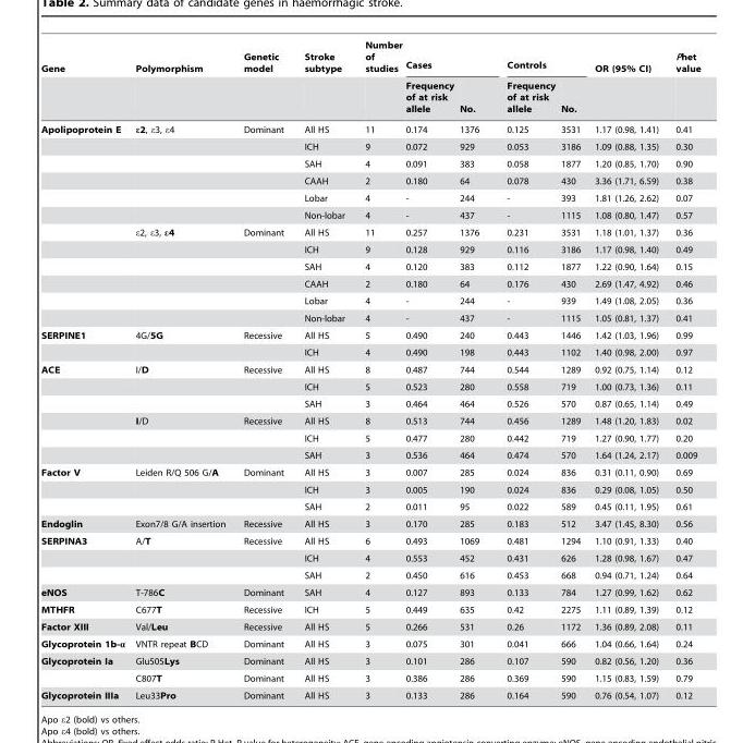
<table><thead><tr><td rowspan="2">Gene</td><td rowspan="2">Polymorphism</td><td rowspan="2">Genetic model</td><td rowspan="2">Stroke subtype</td><td rowspan="2">Number of studies</td><td colspan="2">Cases</td><td colspan="2">Controls</td><td rowspan="2">OR (95% CI)</td><td rowspan="2">Phet value</td></tr><tr><td>Frequency of at risk allele</td><td>No.</td><td>Frequency of at risk allele</td><td>No.</td></tr></thead><tbody><tr><td rowspan="12">Apolipoprotein E</td><td>ε2, ε3, ε4</td><td>Dominant</td><td>All HS</td><td>11</td><td>0.174</td><td>1376</td><td>0.125</td><td>3531</td><td>1.17 (0.98, 1.41)</td><td>0.41</td></tr><tr><td></td><td></td><td>ICH</td><td>9</td><td>0.072</td><td>929</td><td>0.053</td><td>3186</td><td>1.09 (0.88, 1.35)</td><td>0.30</td></tr><tr><td></td><td></td><td>SAH</td><td>4</td><td>0.091</td><td>383</td><td>0.058</td><td>1877</td><td>1.20 (0.85, 1.70)</td><td>0.90</td></tr><tr><td></td><td></td><td>CAAH</td><td>2</td><td>0.180</td><td>64</td><td>0.078</td><td>430</td><td>3.36 (1.71, 6.59)</td><td>0.38</td></tr><tr><td></td><td></td><td>Lobar</td><td>4</td><td>-</td><td>244</td><td>-</td><td>393</td><td>1.81 (1.26, 2.62)</td><td>0.07</td></tr><tr><td></td><td></td><td>Non-lobar</td><td>4</td><td>-</td><td>437</td><td>-</td><td>1115</td><td>1.08 (0.80, 1.47)</td><td>0.57</td></tr><tr><td>ε2, ε3, ε4</td><td>Dominant</td><td>All HS</td><td>11</td><td>0.257</td><td>1376</td><td>0.231</td><td>3531</td><td>1.18 (1.01, 1.37)</td><td>0.36</td></tr><tr><td></td><td></td><td>ICH</td><td>9</td><td>0.128</td><td>929</td><td>0.116</td><td>3186</td><td>1.17 (0.98, 1.40)</td><td>0.49</td></tr><tr><td></td><td></td><td>SAH</td><td>4</td><td>0.120</td><td>383</td><td>0.112</td><td>1877</td><td>1.22 (0.90, 1.64)</td><td>0.15</td></tr><tr><td></td><td></td><td>CAAH</td><td>2</td><td>0.180</td><td>64</td><td>0.176</td><td>430</td><td>2.69 (1.47, 4.92)</td><td>0.46</td></tr><tr><td></td><td></td><td>Lobar</td><td>4</td><td>-</td><td>244</td><td>-</td><td>939</td><td>1.49 (1.08, 2.05)</td><td>0.36</td></tr><tr><td></td><td></td><td>Non-lobar</td><td>4</td><td>-</td><td>437</td><td>-</td><td>1115</td><td>1.05 (0.81, 1.37)</td><td>0.41</td></tr><tr><td rowspan="2">SERPINE1</td><td>4G/5G</td><td>Recessive</td><td>All HS</td><td>5</td><td>0.490</td><td>240</td><td>0.443</td><td>1446</td><td>1.42 (1.03, 1.96)</td><td>0.99</td></tr><tr><td></td><td></td><td>ICH</td><td>4</td><td>0.490</td><td>198</td><td>0.443</td><td>1102</td><td>1.40 (0.98, 2.00)</td><td>0.97</td></tr><tr><td rowspan="6">ACE</td><td>I/D</td><td>Recessive</td><td>All HS</td><td>8</td><td>0.487</td><td>744</td><td>0.544</td><td>1289</td><td>0.92 (0.75, 1.14)</td><td>0.12</td></tr><tr><td></td><td></td><td>ICH</td><td>5</td><td>0.523</td><td>280</td><td>0.558</td><td>719</td><td>1.00 (0.73, 1.36)</td><td>0.11</td></tr><tr><td></td><td></td><td>SAH</td><td>3</td><td>0.464</td><td>464</td><td>0.526</td><td>570</td><td>0.87 (0.65, 1.14)</td><td>0.49</td></tr><tr><td>I/D</td><td>Recessive</td><td>All HS</td><td>8</td><td>0.513</td><td>744</td><td>0.456</td><td>1289</td><td>1.48 (1.20, 1.83)</td><td>0.02</td></tr><tr><td></td><td></td><td>ICH</td><td>5</td><td>0.477</td><td>280</td><td>0.442</td><td>719</td><td>1.27 (0.90, 1.77)</td><td>0.20</td></tr><tr><td></td><td></td><td>SAH</td><td>3</td><td>0.536</td><td>464</td><td>0.474</td><td>570</td><td>1.64 (1.24, 2.17)</td><td>0.009</td></tr><tr><td rowspan="3">Factor V</td><td>Leiden R/Q 506 G/A</td><td>Dominant</td><td>All HS</td><td>3</td><td>0.007</td><td>285</td><td>0.024</td><td>836</td><td>0.31 (0.11, 0.90)</td><td>0.69</td></tr><tr><td></td><td></td><td>ICH</td><td>3</td><td>0.005</td><td>190</td><td>0.024</td><td>836</td><td>0.29 (0.08, 1.05)</td><td>0.50</td></tr><tr><td></td><td></td><td>SAH</td><td>2</td><td>0.011</td><td>95</td><td>0.022</td><td>589</td><td>0.45 (0.11, 1.95)</td><td>0.61</td></tr><tr><td>Endoglin</td><td>Exon7/8 G/A insertion</td><td>Recessive</td><td>All HS</td><td>3</td><td>0.170</td><td>285</td><td>0.183</td><td>512</td><td>3.47 (1.45, 8.30)</td><td>0.56</td></tr><tr><td rowspan="3">SERPINA3</td><td>A/T</td><td>Recessive</td><td>All HS</td><td>6</td><td>0.493</td><td>1069</td><td>0.481</td><td>1294</td><td>1.10 (0.91, 1.33)</td><td>0.40</td></tr><tr><td></td><td></td><td>ICH</td><td>4</td><td>0.553</td><td>452</td><td>0.431</td><td>626</td><td>1.28 (0.98, 1.67)</td><td>0.47</td></tr><tr><td></td><td></td><td>SAH</td><td>2</td><td>0.450</td><td>616</td><td>0.453</td><td>668</td><td>0.94 (0.71, 1.24)</td><td>0.64</td></tr><tr><td>eNOS</td><td>T-786C</td><td>Dominant</td><td>SAH</td><td>4</td><td>0.127</td><td>893</td><td>0.133</td><td>784</td><td>1.27 (0.99, 1.62)</td><td>0.62</td></tr><tr><td>MTHFR</td><td>C677T</td><td>Recessive</td><td>ICH</td><td>5</td><td>0.449</td><td>635</td><td>0.42</td><td>2275</td><td>1.11 (0.89, 1.39)</td><td>0.12</td></tr><tr><td>Factor XIII</td><td>Val/Leu</td><td>Recessive</td><td>All HS</td><td>5</td><td>0.266</td><td>531</td><td>0.26</td><td>1172</td><td>1.36 (0.89, 2.08)</td><td>0.11</td></tr><tr><td>Glycoprotein 1b-α</td><td>VNTR repeat BCD</td><td>Dominant</td><td>All HS</td><td>3</td><td>0.075</td><td>301</td><td>0.041</td><td>666</td><td>1.04 (0.66, 1.64)</td><td>0.24</td></tr><tr><td rowspan="2">Glycoprotein Ia</td><td>Glu505Lys</td><td>Dominant</td><td>All HS</td><td>3</td><td>0.101</td><td>286</td><td>0.107</td><td>590</td><td>0.82 (0.56, 1.20)</td><td>0.36</td></tr><tr><td>C807T</td><td>Dominant</td><td>All HS</td><td>3</td><td>0.386</td><td>286</td><td>0.369</td><td>590</td><td>1.15 (0.83, 1.59)</td><td>0.79</td></tr><tr><td>Glycoprotein IIIa</td><td>Leu33Pro</td><td>Dominant</td><td>All HS</td><td>3</td><td>0.133</td><td>286</td><td>0.164</td><td>590</td><td>0.76 (0.54, 1.07)</td><td>0.12</td></tr></tbody></table>